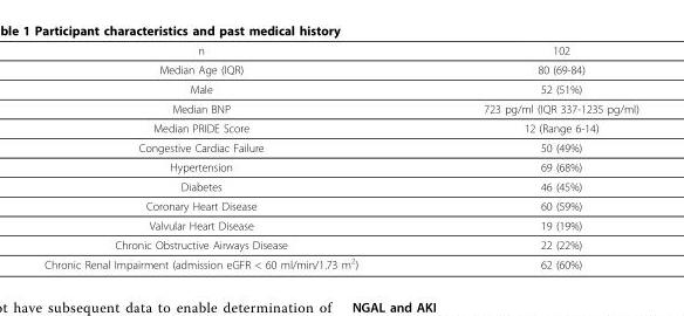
<table><thead><tr><td>n</td><td>102</td></tr></thead><tbody><tr><td>Median Age (IQR)</td><td>80 (69-84)</td></tr><tr><td>Male</td><td>52 (51%)</td></tr><tr><td>Median BNP</td><td>723 pg/ml (IQR 337-1235 pg/ml)</td></tr><tr><td>Median PRIDE Score</td><td>12 (Range 6-14)</td></tr><tr><td>Congestive Cardiac Failure</td><td>50 (49%)</td></tr><tr><td>Hypertension</td><td>69 (68%)</td></tr><tr><td>Diabetes</td><td>46 (45%)</td></tr><tr><td>Coronary Heart Disease</td><td>60 (59%)</td></tr><tr><td>Valvular Heart Disease</td><td>19 (19%)</td></tr><tr><td>Chronic Obstructive Airways Disease</td><td>22 (22%)</td></tr><tr><td>Chronic Renal Impairment (admission eGFR &lt; 60 ml/min/1.73 m<sup>2</sup>)</td><td>62 (60%)</td></tr></tbody></table>